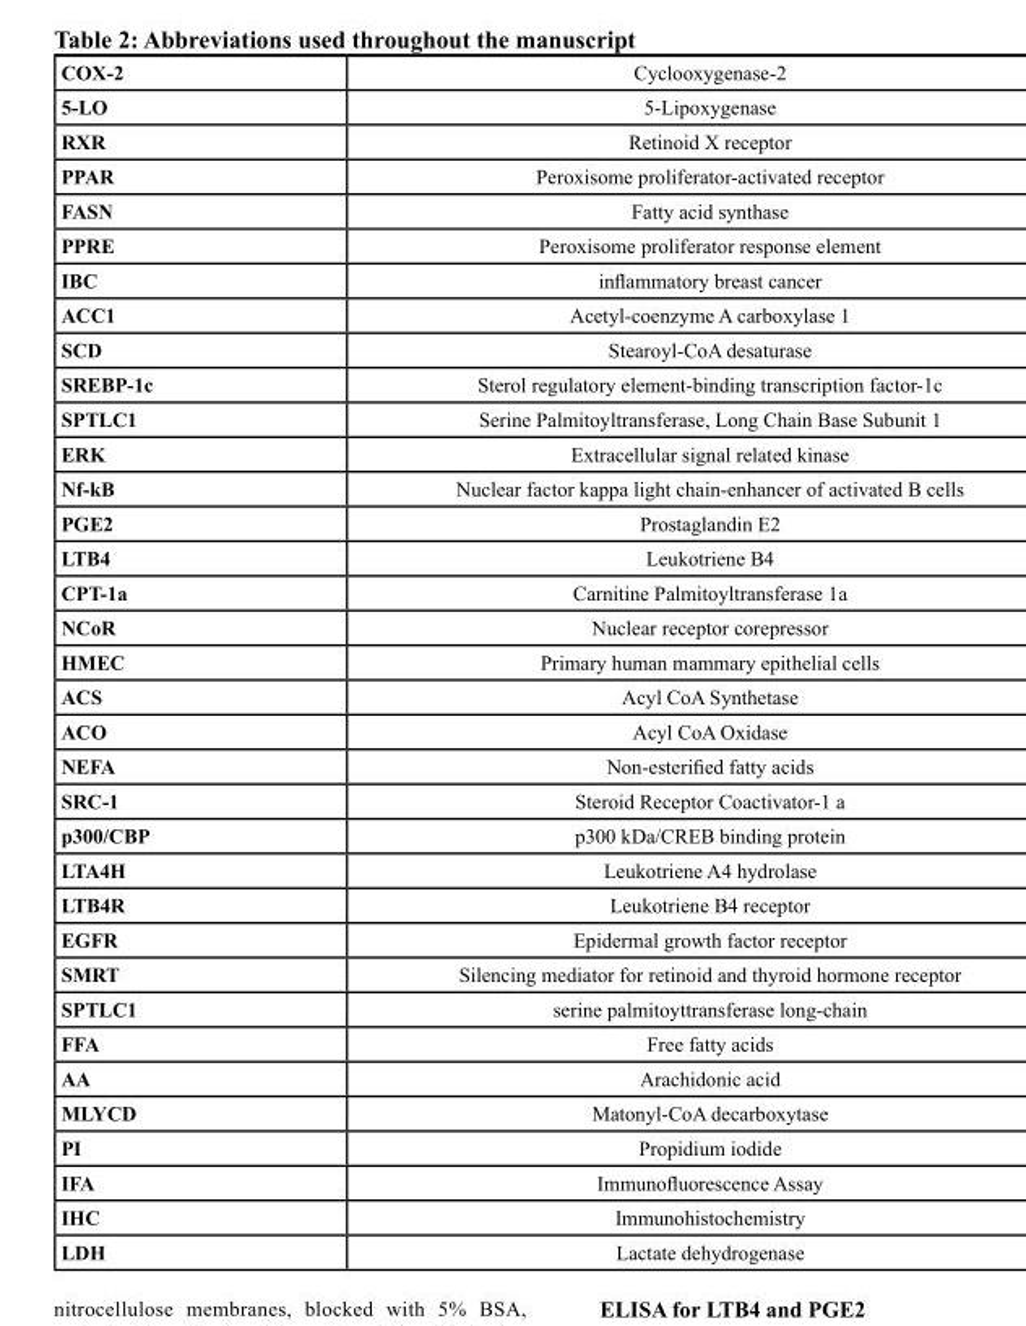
<table><tbody><tr><td>COX-2</td><td>Cyclooxygenase-2</td></tr><tr><td>5-LO</td><td>5-Lipoxygenase</td></tr><tr><td>RXR</td><td>Retinoid X receptor</td></tr><tr><td>PPAR</td><td>Peroxisome proliferator-activated receptor</td></tr><tr><td>FASN</td><td>Fatty acid synthase</td></tr><tr><td>PPRE</td><td>Peroxisome proliferator response element</td></tr><tr><td>IBC</td><td>inflammatory breast cancer</td></tr><tr><td>ACC1</td><td>Acetyl-coenzyme A carboxylase 1</td></tr><tr><td>SCD</td><td>Stearoyl-CoA desaturase</td></tr><tr><td>SREBP-1c</td><td>Sterol regulatory element-binding transcription factor-1c</td></tr><tr><td>SPTLC1</td><td>Serine Palmitoyltransferase, Long Chain Base Subunit 1</td></tr><tr><td>ERK</td><td>Extracellular signal related kinase</td></tr><tr><td>Nf-kB</td><td>Nuclear factor kappa light chain-enhancer of activated B cells</td></tr><tr><td>PGE2</td><td>Prostaglandin E2</td></tr><tr><td>LTB4</td><td>Leukotriene B4</td></tr><tr><td>CPT-1a</td><td>Carnitine Palmitoyltransferase 1a</td></tr><tr><td>NCoR</td><td>Nuclear receptor corepressor</td></tr><tr><td>HMEC</td><td>Primary human mammary epithelial cells</td></tr><tr><td>ACS</td><td>Acyl CoA Synthetase</td></tr><tr><td>ACO</td><td>Acyl CoA Oxidase</td></tr><tr><td>NEFA</td><td>Non-esterified fatty acids</td></tr><tr><td>SRC-1</td><td>Steroid Receptor Coactivator-1 a</td></tr><tr><td>p300/CBP</td><td>p300 kDa/CREB binding protein</td></tr><tr><td>LTA4H</td><td>Leukotriene A4 hydrolase</td></tr><tr><td>LTB4R</td><td>Leukotriene B4 receptor</td></tr><tr><td>EGFR</td><td>Epidermal growth factor receptor</td></tr><tr><td>SMRT</td><td>Silencing mediator for retinoid and thyroid hormone receptor</td></tr><tr><td>SPTLC1</td><td>serine palmitoyttransferase long-chain</td></tr><tr><td>FFA</td><td>Free fatty acids</td></tr><tr><td>AA</td><td>Arachidonic acid</td></tr><tr><td>MLYCD</td><td>Matonyl-CoA decarboxytase</td></tr><tr><td>PI</td><td>Propidium iodide</td></tr><tr><td>IFA</td><td>Immunofluorescence Assay</td></tr><tr><td>IHC</td><td>Immunohistochemistry</td></tr><tr><td>LDH</td><td>Lactate dehydrogenase</td></tr></tbody></table>